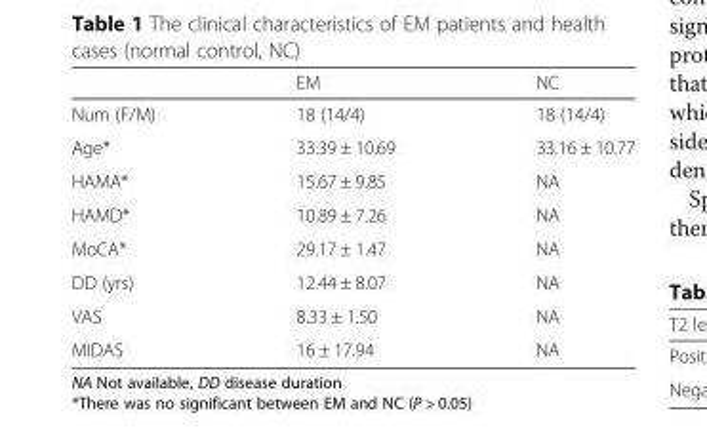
<table><thead><tr><td></td><td>EM</td><td>NC</td></tr></thead><tbody><tr><td>Num (F/M)</td><td>18 (14/4)</td><td>18 (14/4)</td></tr><tr><td>Age*</td><td>33.39 ± 10.69</td><td>33.16 ± 10.77</td></tr><tr><td>HAMA*</td><td>15.67 ± 9.85</td><td>NA</td></tr><tr><td>HAMD*</td><td>10.89 ± 7.26</td><td>NA</td></tr><tr><td>MoCA*</td><td>29.17 ± 1.47</td><td>NA</td></tr><tr><td>DD (yrs)</td><td>12.44 ± 8.07</td><td>NA</td></tr><tr><td>VAS</td><td>8.33 ± 1.50</td><td>NA</td></tr><tr><td>MIDAS</td><td>16 ± 17.94</td><td>NA</td></tr></tbody></table>